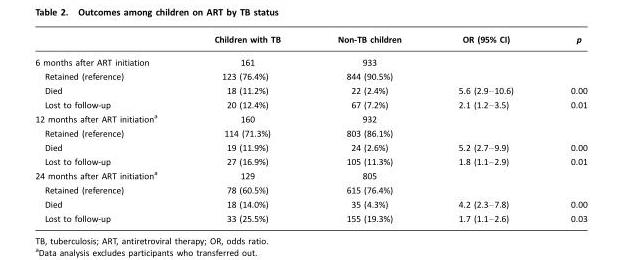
<table><thead><tr><td></td><td>Children with TB</td><td>Non-TB children</td><td>OR (95% CI)</td><td>p</td></tr></thead><tbody><tr><td>6 months after ART initiation</td><td>161</td><td>933</td><td></td><td></td></tr><tr><td>Retained (reference)</td><td>123 (76.4%)</td><td>844 (90.5%)</td><td></td><td></td></tr><tr><td>Died</td><td>18 (11.2%)</td><td>22 (2.4%)</td><td>5.6 (2.9–10.6)</td><td>0.00</td></tr><tr><td>Lost to follow-up</td><td>20 (12.4%)</td><td>67 (7.2%)</td><td>2.1 (1.2–3.5)</td><td>0.01</td></tr><tr><td>12 months after ART initiation<sup>a</sup></td><td>160</td><td>932</td><td></td><td></td></tr><tr><td>Retained (reference)</td><td>114 (71.3%)</td><td>803 (86.1%)</td><td></td><td></td></tr><tr><td>Died</td><td>19 (11.9%)</td><td>24 (2.6%)</td><td>5.2 (2.7–9.9)</td><td>0.00</td></tr><tr><td>Lost to follow-up</td><td>27 (16.9%)</td><td>105 (11.3%)</td><td>1.8 (1.1–2.9)</td><td>0.01</td></tr><tr><td>24 months after ART initiation<sup>a</sup></td><td>129</td><td>805</td><td></td><td></td></tr><tr><td>Retained (reference)</td><td>78 (60.5%)</td><td>615 (76.4%)</td><td></td><td></td></tr><tr><td>Died</td><td>18 (14.0%)</td><td>35 (4.3%)</td><td>4.2 (2.3–7.8)</td><td>0.00</td></tr><tr><td>Lost to follow-up</td><td>33 (25.5%)</td><td>155 (19.3%)</td><td>1.7 (1.1–2.6)</td><td>0.03</td></tr></tbody></table>